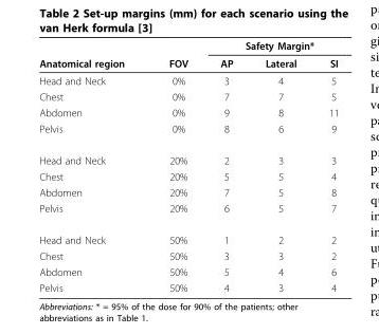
<table><thead><tr><td rowspan="2">Anatomical region</td><td rowspan="2">FOV</td><td colspan="3">Safety Margin*</td></tr><tr><td>AP</td><td>Lateral</td><td>SI</td></tr></thead><tbody><tr><td>Head and Neck</td><td>0%</td><td>3</td><td>4</td><td>5</td></tr><tr><td>Chest</td><td>0%</td><td>7</td><td>7</td><td>5</td></tr><tr><td>Abdomen</td><td>0%</td><td>9</td><td>8</td><td>11</td></tr><tr><td>Pelvis</td><td>0%</td><td>8</td><td>6</td><td>9</td></tr><tr><td>Head and Neck</td><td>20%</td><td>2</td><td>3</td><td>3</td></tr><tr><td>Chest</td><td>20%</td><td>5</td><td>5</td><td>4</td></tr><tr><td>Abdomen</td><td>20%</td><td>7</td><td>5</td><td>8</td></tr><tr><td>Pelvis</td><td>20%</td><td>6</td><td>5</td><td>7</td></tr><tr><td>Head and Neck</td><td>50%</td><td>1</td><td>2</td><td>2</td></tr><tr><td>Chest</td><td>50%</td><td>3</td><td>3</td><td>2</td></tr><tr><td>Abdomen</td><td>50%</td><td>5</td><td>4</td><td>6</td></tr><tr><td>Pelvis</td><td>50%</td><td>4</td><td>3</td><td>4</td></tr></tbody></table>